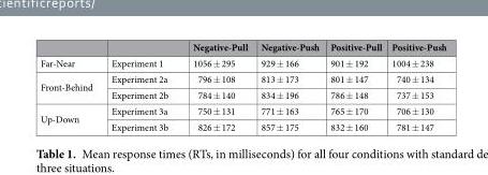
<table><thead><tr><td></td><td></td><td>Negative-Pull</td><td>Negative-Push</td><td>Positive-Pull</td><td>Positive-Push</td></tr></thead><tbody><tr><td>Far-Near</td><td>Experiment 1</td><td>1056 ± 295</td><td>929 ± 166</td><td>901 ± 192</td><td>1004 ± 238</td></tr><tr><td rowspan="2">Front-Behind</td><td>Experiment 2a</td><td>796 ± 108</td><td>813 ± 173</td><td>801 ± 147</td><td>740 ± 134</td></tr><tr><td>Experiment 2b</td><td>784 ± 140</td><td>834 ± 196</td><td>786 ± 148</td><td>737 ± 153</td></tr><tr><td rowspan="2">Up-Down</td><td>Experiment 3a</td><td>750 ± 131</td><td>771 ± 163</td><td>765 ± 170</td><td>706 ± 130</td></tr><tr><td>Experiment 3b</td><td>826 ± 172</td><td>857 ± 175</td><td>832 ± 160</td><td>781 ± 147</td></tr></tbody></table>